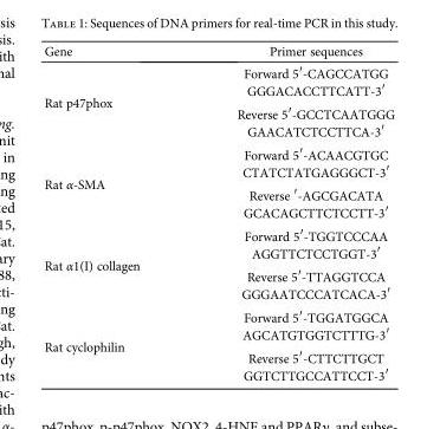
<table><thead><tr><td>Gene</td><td>Primer sequences</td></tr></thead><tbody><tr><td rowspan="2">Rat p47phox</td><td>Forward 5′-CAGCCATGG GGGACACCTTCATT-3′</td></tr><tr><td>Reverse 5′-GCCTCAATGGG GAACATCTCCTTCA-3′</td></tr><tr><td rowspan="2">Rat α-SMA</td><td>Forward 5′-ACAACGTGC CTATCTATGAGGGCT-3′</td></tr><tr><td>Reverse ′-AGCGACATA GCACAGCTTCTCCTT-3′</td></tr><tr><td rowspan="2">Rat α1(I) collagen</td><td>Forward 5′-TGGTCCCAA AGGTTCTCCTGGT-3′</td></tr><tr><td>Reverse 5′-TTAGGTCCA GGGAATCCCATCACA-3′</td></tr><tr><td rowspan="2">Rat cyclophilin</td><td>Forward 5′-TGGATGGCA AGCATGTGGTCTTTG-3′</td></tr><tr><td>Reverse 5′-CTTCTTGCT GGTCTTGCCATTCCT-3′</td></tr></tbody></table>